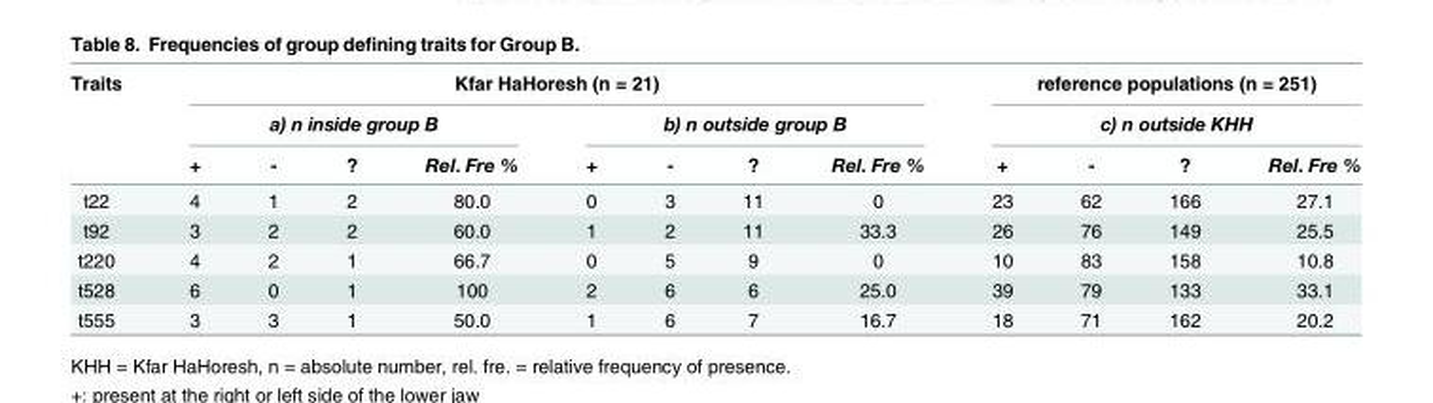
<table><thead><tr><td rowspan="3">Traits</td><td colspan="8">Kfar HaHoresh (n = 21)</td><td rowspan="2" colspan="4">reference populations (n = 251) c) n outside KHH</td></tr><tr><td colspan="4">a) n inside group B</td><td colspan="4">b) n outside group B</td></tr><tr><td>+</td><td>-</td><td>?</td><td>Rel. Fre %</td><td>+</td><td>-</td><td>?</td><td>Rel. Fre %</td><td>+</td><td>-</td><td>?</td><td>Rel. Fre %</td></tr></thead><tbody><tr><td>t22</td><td>4</td><td>1</td><td>2</td><td>80.0</td><td>0</td><td>3</td><td>11</td><td>0</td><td>23</td><td>62</td><td>166</td><td>27.1</td></tr><tr><td>t92</td><td>3</td><td>2</td><td>2</td><td>60.0</td><td>1</td><td>2</td><td>11</td><td>33.3</td><td>26</td><td>76</td><td>149</td><td>25.5</td></tr><tr><td>t220</td><td>4</td><td>2</td><td>1</td><td>66.7</td><td>0</td><td>5</td><td>9</td><td>0</td><td>10</td><td>83</td><td>158</td><td>10.8</td></tr><tr><td>t528</td><td>6</td><td>0</td><td>1</td><td>100</td><td>2</td><td>6</td><td>6</td><td>25.0</td><td>39</td><td>79</td><td>133</td><td>33.1</td></tr><tr><td>t555</td><td>3</td><td>3</td><td>1</td><td>50.0</td><td>1</td><td>6</td><td>7</td><td>16.7</td><td>18</td><td>71</td><td>162</td><td>20.2</td></tr></tbody></table>